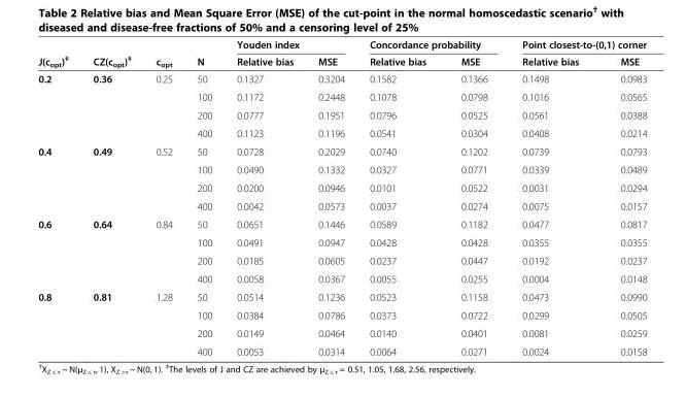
<table><thead><tr><td rowspan="2">J(c<sub>opt</sub>)<sup>‡</sup></td><td rowspan="2">CZ(c<sub>opt</sub>)<sup>‡</sup></td><td rowspan="2">c<sub>opt</sub></td><td rowspan="2">N</td><td colspan="2">Youden index</td><td colspan="2">Concordance probability</td><td colspan="2">Point closest-to-(0,1) corner</td></tr><tr><td>Relative bias</td><td>MSE</td><td>Relative bias</td><td>MSE</td><td>Relative bias</td><td>MSE</td></tr></thead><tbody><tr><td rowspan="4">0.2</td><td>0.36</td><td>0.25</td><td>50</td><td>0.1327</td><td>0.3204</td><td>0.1582</td><td>0.1366</td><td>0.1498</td><td>0.0983</td></tr><tr><td></td><td></td><td>100</td><td>0.1172</td><td>0.2448</td><td>0.1078</td><td>0.0798</td><td>0.1016</td><td>0.0565</td></tr><tr><td></td><td></td><td>200</td><td>0.0777</td><td>0.1951</td><td>0.0796</td><td>0.0525</td><td>0.0561</td><td>0.0388</td></tr><tr><td></td><td></td><td>400</td><td>0.1123</td><td>0.1196</td><td>0.0541</td><td>0.0304</td><td>0.0408</td><td>0.0214</td></tr><tr><td rowspan="4">0.4</td><td>0.49</td><td>0.52</td><td>50</td><td>0.0728</td><td>0.2029</td><td>0.0740</td><td>0.1202</td><td>0.0739</td><td>0.0793</td></tr><tr><td></td><td></td><td>100</td><td>0.0490</td><td>0.1332</td><td>0.0327</td><td>0.0771</td><td>0.0339</td><td>0.0489</td></tr><tr><td></td><td></td><td>200</td><td>0.0200</td><td>0.0946</td><td>0.0101</td><td>0.0522</td><td>0.0031</td><td>0.0294</td></tr><tr><td></td><td></td><td>400</td><td>0.0042</td><td>0.0573</td><td>0.0037</td><td>0.0274</td><td>0.0075</td><td>0.0157</td></tr><tr><td rowspan="4">0.6</td><td>0.64</td><td>0.84</td><td>50</td><td>0.0651</td><td>0.1446</td><td>0.0589</td><td>0.1182</td><td>0.0477</td><td>0.0817</td></tr><tr><td></td><td></td><td>100</td><td>0.0491</td><td>0.0947</td><td>0.0428</td><td>0.0428</td><td>0.0355</td><td>0.0355</td></tr><tr><td></td><td></td><td>200</td><td>0.0185</td><td>0.0605</td><td>0.0237</td><td>0.0447</td><td>0.0192</td><td>0.0237</td></tr><tr><td></td><td></td><td>400</td><td>0.0058</td><td>0.0367</td><td>0.0055</td><td>0.0255</td><td>0.0004</td><td>0.0148</td></tr><tr><td rowspan="4">0.8</td><td>0.81</td><td>1.28</td><td>50</td><td>0.0514</td><td>0.1236</td><td>0.0523</td><td>0.1158</td><td>0.0473</td><td>0.0990</td></tr><tr><td></td><td></td><td>100</td><td>0.0384</td><td>0.0786</td><td>0.0373</td><td>0.0722</td><td>0.0299</td><td>0.0505</td></tr><tr><td></td><td></td><td>200</td><td>0.0149</td><td>0.0464</td><td>0.0140</td><td>0.0401</td><td>0.0081</td><td>0.0259</td></tr><tr><td></td><td></td><td>400</td><td>0.0053</td><td>0.0314</td><td>0.0064</td><td>0.0271</td><td>0.0024</td><td>0.0158</td></tr></tbody></table>